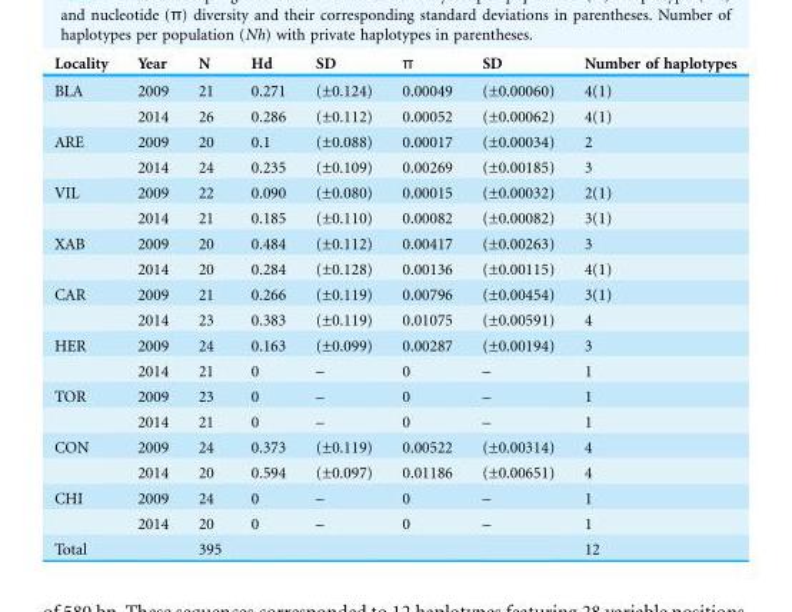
<table><thead><tr><td>Locality</td><td>Year</td><td>N</td><td>Hd</td><td>SD</td><td>π</td><td>SD</td><td>Number of haplotypes</td></tr></thead><tbody><tr><td rowspan="2">BLA</td><td>2009</td><td>21</td><td>0.271</td><td>(±0.124)</td><td>0.00049</td><td>(±0.00060)</td><td>4(1)</td></tr><tr><td>2014</td><td>26</td><td>0.286</td><td>(±0.112)</td><td>0.00052</td><td>(±0.00062)</td><td>4(1)</td></tr><tr><td rowspan="2">ARE</td><td>2009</td><td>20</td><td>0.1</td><td>(±0.088)</td><td>0.00017</td><td>(±0.00034)</td><td>2</td></tr><tr><td>2014</td><td>24</td><td>0.235</td><td>(±0.109)</td><td>0.00269</td><td>(±0.00185)</td><td>3</td></tr><tr><td rowspan="2">VIL</td><td>2009</td><td>22</td><td>0.090</td><td>(±0.080)</td><td>0.00015</td><td>(±0.00032)</td><td>2(1)</td></tr><tr><td>2014</td><td>21</td><td>0.185</td><td>(±0.110)</td><td>0.00082</td><td>(±0.00082)</td><td>3(1)</td></tr><tr><td rowspan="2">XAB</td><td>2009</td><td>20</td><td>0.484</td><td>(±0.112)</td><td>0.00417</td><td>(±0.00263)</td><td>3</td></tr><tr><td>2014</td><td>20</td><td>0.284</td><td>(±0.128)</td><td>0.00136</td><td>(±0.00115)</td><td>4(1)</td></tr><tr><td rowspan="2">CAR</td><td>2009</td><td>21</td><td>0.266</td><td>(±0.119)</td><td>0.00796</td><td>(±0.00454)</td><td>3(1)</td></tr><tr><td>2014</td><td>23</td><td>0.383</td><td>(±0.119)</td><td>0.01075</td><td>(±0.00591)</td><td>4</td></tr><tr><td rowspan="2">HER</td><td>2009</td><td>24</td><td>0.163</td><td>(±0.099)</td><td>0.00287</td><td>(±0.00194)</td><td>3</td></tr><tr><td>2014</td><td>21</td><td>0</td><td>–</td><td>0</td><td>–</td><td>1</td></tr><tr><td rowspan="2">TOR</td><td>2009</td><td>23</td><td>0</td><td>–</td><td>0</td><td>–</td><td>1</td></tr><tr><td>2014</td><td>21</td><td>0</td><td>–</td><td>0</td><td>–</td><td>1</td></tr><tr><td rowspan="2">CON</td><td>2009</td><td>24</td><td>0.373</td><td>(±0.119)</td><td>0.00522</td><td>(±0.00314)</td><td>4</td></tr><tr><td>2014</td><td>20</td><td>0.594</td><td>(±0.097)</td><td>0.01186</td><td>(±0.00651)</td><td>4</td></tr><tr><td rowspan="2">CHI</td><td>2009</td><td>24</td><td>0</td><td>–</td><td>0</td><td>–</td><td>1</td></tr><tr><td>2014</td><td>20</td><td>0</td><td>–</td><td>0</td><td>–</td><td>1</td></tr><tr><td>Total</td><td></td><td>395</td><td></td><td></td><td></td><td></td><td>12</td></tr></tbody></table>